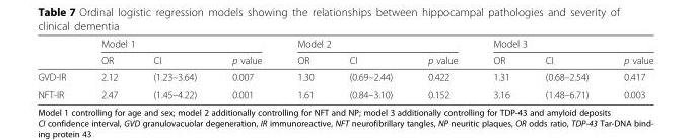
<table><thead><tr><td rowspan="2"></td><td colspan="3">Model 1</td><td colspan="3">Model 2</td><td colspan="3">Model 3</td></tr><tr><td>OR</td><td>CI</td><td>p value</td><td>OR</td><td>CI</td><td>p value</td><td>OR</td><td>CI</td><td>p value</td></tr></thead><tbody><tr><td>GVD-IR</td><td>2.12</td><td>(1.23–3.64)</td><td>0.007</td><td>1.30</td><td>(0.69–2.44)</td><td>0.422</td><td>1.31</td><td>(0.68–2.54)</td><td>0.417</td></tr><tr><td>NFT-IR</td><td>2.47</td><td>(1.45–4.22)</td><td>0.001</td><td>1.61</td><td>(0.84–3.10)</td><td>0.152</td><td>3.16</td><td>(1.48–6.71)</td><td>0.003</td></tr></tbody></table>